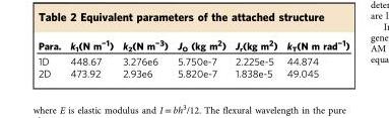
<table><thead><tr><td>Para.</td><td>k<sub>1</sub>(N m<sup>−1</sup>)</td><td>k<sub>2</sub>(N m<sup>−3</sup>)</td><td>J<sub>O</sub> (kg m<sup>2</sup>)</td><td>J<sub>r</sub>(kg m<sup>2</sup>)</td><td>k<sub>T</sub>(N m rad<sup>−1</sup>)</td></tr></thead><tbody><tr><td>1D</td><td>448.67</td><td>3.276e6</td><td>5.750e-7</td><td>2.225e-5</td><td>44.874</td></tr><tr><td>2D</td><td>473.92</td><td>2.93e6</td><td>5.820e-7</td><td>1.838e-5</td><td>49.045</td></tr></tbody></table>